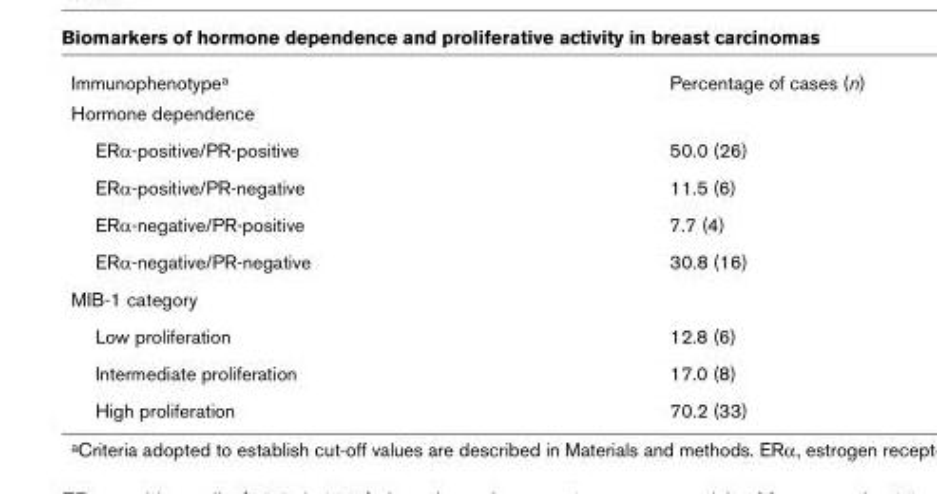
<table><tbody><tr><td>Immunophenotypea</td><td>Percentage of cases (n)</td></tr><tr><td colspan="2">Hormone dependence</td></tr><tr><td>ERα-positive/PR-positive</td><td>50.0 (26)</td></tr><tr><td>ERα-positive/PR-negative</td><td>11.5 (6)</td></tr><tr><td>ERα-negative/PR-positive</td><td>7.7 (4)</td></tr><tr><td>ERα-negative/PR-negative</td><td>30.8 (16)</td></tr><tr><td colspan="2">MIB-1 category</td></tr><tr><td>Low proliferation</td><td>12.8 (6)</td></tr><tr><td>Intermediate proliferation</td><td>17.0 (8)</td></tr><tr><td>High proliferation</td><td>70.2 (33)</td></tr></tbody></table>